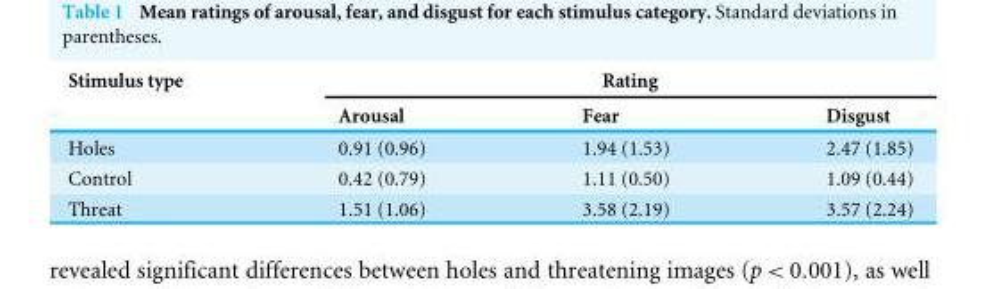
<table><thead><tr><td rowspan="2">Stimulus type</td><td colspan="3">Rating</td></tr><tr><td>Arousal</td><td>Fear</td><td>Disgust</td></tr></thead><tbody><tr><td>Holes</td><td>0.91 (0.96)</td><td>1.94 (1.53)</td><td>2.47 (1.85)</td></tr><tr><td>Control</td><td>0.42 (0.79)</td><td>1.11 (0.50)</td><td>1.09 (0.44)</td></tr><tr><td>Threat</td><td>1.51 (1.06)</td><td>3.58 (2.19)</td><td>3.57 (2.24)</td></tr></tbody></table>